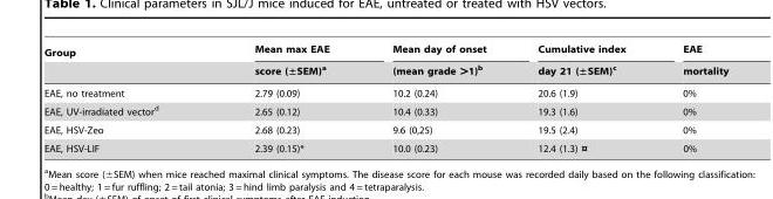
<table><thead><tr><td rowspan="2">Group</td><td rowspan="2">Mean max EAE score (±SEM)<sup>a</sup></td><td rowspan="2">Mean day of onset (mean grade &gt;1)<sup>b</sup></td><td rowspan="2">Cumulative index day 21 (±SEM)<sup>c</sup></td><td rowspan="2">EAE mortality</td></tr><tr></tr></thead><tbody><tr><td>EAE, no treatment</td><td>2.79 (0.09)</td><td>10.2 (0.24)</td><td>20.6 (1.9)</td><td>0%</td></tr><tr><td>EAE, UV-irradiated vector<sup>d</sup></td><td>2.65 (0.12)</td><td>10.4 (0.33)</td><td>19.3 (1.6)</td><td>0%</td></tr><tr><td>EAE, HSV-Zeo</td><td>2.68 (0.23)</td><td>9.6 (0,25)</td><td>19.5 (2.4)</td><td>0%</td></tr><tr><td>EAE, HSV-LIF</td><td>2.39 (0.15)*</td><td>10.0 (0.23)</td><td>12.4 (1.3) ¤</td><td>0%</td></tr></tbody></table>